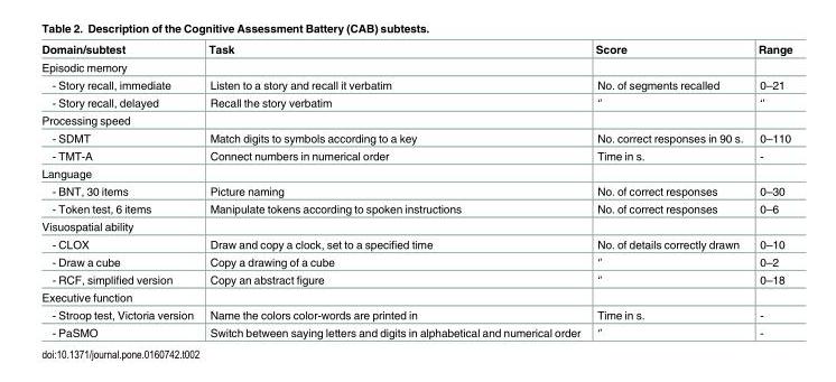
<table><thead><tr><td>Domain/subtest</td><td>Task</td><td>Score</td><td>Range</td></tr></thead><tbody><tr><td colspan="4">Episodic memory</td></tr><tr><td>- Story recall, immediate</td><td>Listen to a story and recall it verbatim</td><td>No. of segments recalled</td><td>0–21</td></tr><tr><td>- Story recall, delayed</td><td>Recall the story verbatim</td><td>‘’</td><td>‘’</td></tr><tr><td colspan="4">Processing speed</td></tr><tr><td>- SDMT</td><td>Match digits to symbols according to a key</td><td>No. correct responses in 90 s.</td><td>0–110</td></tr><tr><td>- TMT-A</td><td>Connect numbers in numerical order</td><td>Time in s.</td><td>-</td></tr><tr><td colspan="4">Language</td></tr><tr><td>- BNT, 30 items</td><td>Picture naming</td><td>No. of correct responses</td><td>0–30</td></tr><tr><td>- Token test, 6 items</td><td>Manipulate tokens according to spoken instructions</td><td>No. of correct responses</td><td>0–6</td></tr><tr><td colspan="4">Visuospatial ability</td></tr><tr><td>- CLOX</td><td>Draw and copy a clock, set to a specified time</td><td>No. of details correctly drawn</td><td>0–10</td></tr><tr><td>- Draw a cube</td><td>Copy a drawing of a cube</td><td>‘’</td><td>0–2</td></tr><tr><td>- RCF, simplified version</td><td>Copy an abstract figure</td><td>‘’</td><td>0–18</td></tr><tr><td colspan="4">Executive function</td></tr><tr><td>- Stroop test, Victoria version</td><td>Name the colors color-words are printed in</td><td>Time in s.</td><td>-</td></tr><tr><td>- PaSMO</td><td>Switch between saying letters and digits in alphabetical and numerical order</td><td>‘’</td><td>-</td></tr></tbody></table>